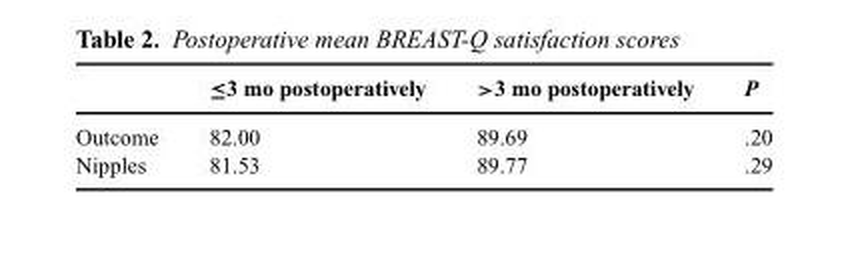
<table><thead><tr><td></td><td>≤3 mo postoperatively</td><td>&gt;3 mo postoperatively</td><td>P</td></tr></thead><tbody><tr><td>Outcome</td><td>82.00</td><td>89.69</td><td>.20</td></tr><tr><td>Nipples</td><td>81.53</td><td>89.77</td><td>.29</td></tr></tbody></table>